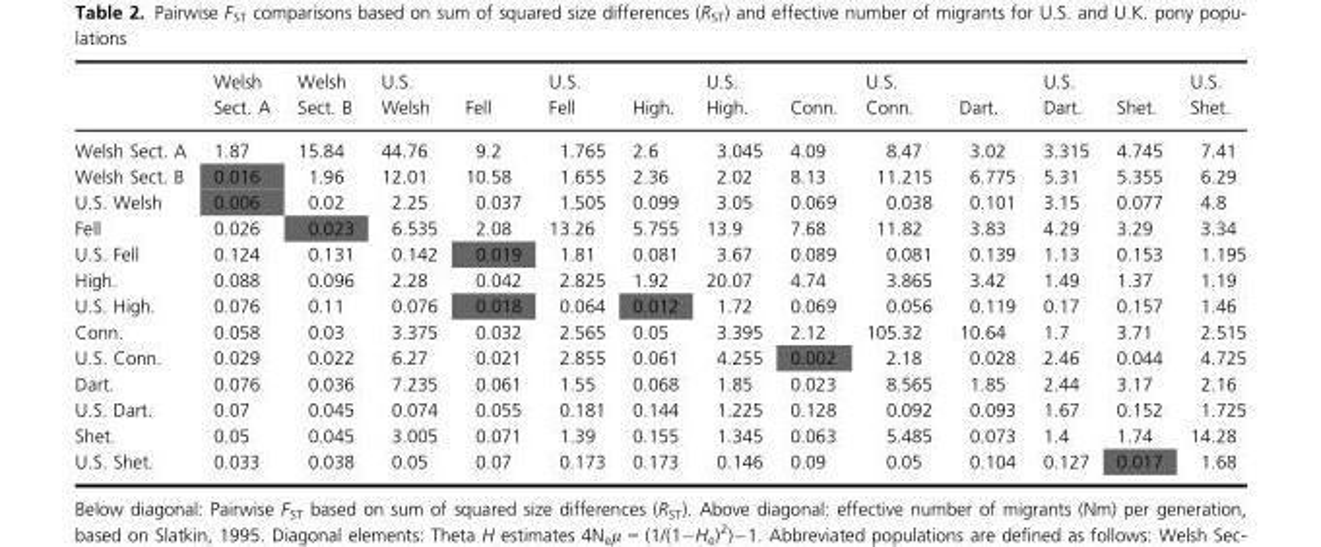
<table><thead><tr><td></td><td>Welsh Sect. A</td><td>Welsh Sect. B</td><td>U.S. Welsh</td><td>Fell</td><td>U.S. Fell</td><td>High.</td><td>U.S. High.</td><td>Conn.</td><td>U.S. Conn.</td><td>Dart.</td><td>U.S. Dart.</td><td>Shet.</td><td>U.S. Shet.</td></tr></thead><tbody><tr><td>Welsh Sect. A</td><td>1.87</td><td>15.84</td><td>44.76</td><td>9.2</td><td>1.765</td><td>2.6</td><td>3.045</td><td>4.09</td><td>8.47</td><td>3.02</td><td>3.315</td><td>4.745</td><td>7.41</td></tr><tr><td>Welsh Sect. B</td><td>0.016</td><td>1.96</td><td>12.01</td><td>10.58</td><td>1.655</td><td>2.36</td><td>2.02</td><td>8.13</td><td>11.215</td><td>6.775</td><td>5.31</td><td>5.355</td><td>6.29</td></tr><tr><td>U.S. Welsh</td><td>0.006</td><td>0.02</td><td>2.25</td><td>0.037</td><td>1.505</td><td>0.099</td><td>3.05</td><td>0.069</td><td>0.038</td><td>0.101</td><td>3.15</td><td>0.077</td><td>4.8</td></tr><tr><td>Fell</td><td>0.026</td><td>0.023</td><td>6.535</td><td>2.08</td><td>13.26</td><td>5.755</td><td>13.9</td><td>7.68</td><td>11.82</td><td>3.83</td><td>4.29</td><td>3.29</td><td>3.34</td></tr><tr><td>U.S. Fell</td><td>0.124</td><td>0.131</td><td>0.142</td><td>0.019</td><td>1.81</td><td>0.081</td><td>3.67</td><td>0.089</td><td>0.081</td><td>0.139</td><td>1.13</td><td>0.153</td><td>1.195</td></tr><tr><td>High.</td><td>0.088</td><td>0.096</td><td>2.28</td><td>0.042</td><td>2.825</td><td>1.92</td><td>20.07</td><td>4.74</td><td>3.865</td><td>3.42</td><td>1.49</td><td>1.37</td><td>1.19</td></tr><tr><td>U.S. High.</td><td>0.076</td><td>0.11</td><td>0.076</td><td>0.018</td><td>0.064</td><td>0.012</td><td>1.72</td><td>0.069</td><td>0.056</td><td>0.119</td><td>0.17</td><td>0.157</td><td>1.46</td></tr><tr><td>Conn.</td><td>0.058</td><td>0.03</td><td>3.375</td><td>0.032</td><td>2.565</td><td>0.05</td><td>3.395</td><td>2.12</td><td>105.32</td><td>10.64</td><td>1.7</td><td>3.71</td><td>2.515</td></tr><tr><td>U.S. Conn.</td><td>0.029</td><td>0.022</td><td>6.27</td><td>0.021</td><td>2.855</td><td>0.061</td><td>4.255</td><td>0.002</td><td>2.18</td><td>0.028</td><td>2.46</td><td>0.044</td><td>4.725</td></tr><tr><td>Dart.</td><td>0.076</td><td>0.036</td><td>7.235</td><td>0.061</td><td>1.55</td><td>0.068</td><td>1.85</td><td>0.023</td><td>8.565</td><td>1.85</td><td>2.44</td><td>3.17</td><td>2.16</td></tr><tr><td>U.S. Dart.</td><td>0.07</td><td>0.045</td><td>0.074</td><td>0.055</td><td>0.181</td><td>0.144</td><td>1.225</td><td>0.128</td><td>0.092</td><td>0.093</td><td>1.67</td><td>0.152</td><td>1.725</td></tr><tr><td>Shet.</td><td>0.05</td><td>0.045</td><td>3.005</td><td>0.071</td><td>1.39</td><td>0.155</td><td>1.345</td><td>0.063</td><td>5.485</td><td>0.073</td><td>1.4</td><td>1.74</td><td>14.28</td></tr><tr><td>U.S. Shet.</td><td>0.033</td><td>0.038</td><td>0.05</td><td>0.07</td><td>0.173</td><td>0.173</td><td>0.146</td><td>0.09</td><td>0.05</td><td>0.104</td><td>0.127</td><td>0.017</td><td>1.68</td></tr></tbody></table>